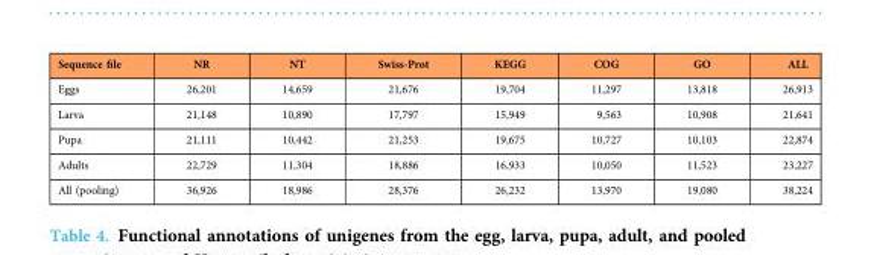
<table><thead><tr><td>Sequence file</td><td>NR</td><td>NT</td><td>Swiss-Prot</td><td>KEGG</td><td>COG</td><td>GO</td><td>ALL</td></tr></thead><tbody><tr><td>Eggs</td><td>26,201</td><td>14,659</td><td>21,676</td><td>19,704</td><td>11,297</td><td>13,818</td><td>26,913</td></tr><tr><td>Larva</td><td>21,148</td><td>10,890</td><td>17,797</td><td>15,949</td><td>9,563</td><td>10,908</td><td>21,641</td></tr><tr><td>Pupa</td><td>21,111</td><td>10,442</td><td>21,253</td><td>19,675</td><td>10,727</td><td>10,103</td><td>22,874</td></tr><tr><td>Adults</td><td>22,729</td><td>11,304</td><td>18,886</td><td>16,933</td><td>10,050</td><td>11,523</td><td>23,227</td></tr><tr><td>All (pooling)</td><td>36,926</td><td>18,986</td><td>28,376</td><td>26,232</td><td>13,970</td><td>19,080</td><td>38,224</td></tr></tbody></table>